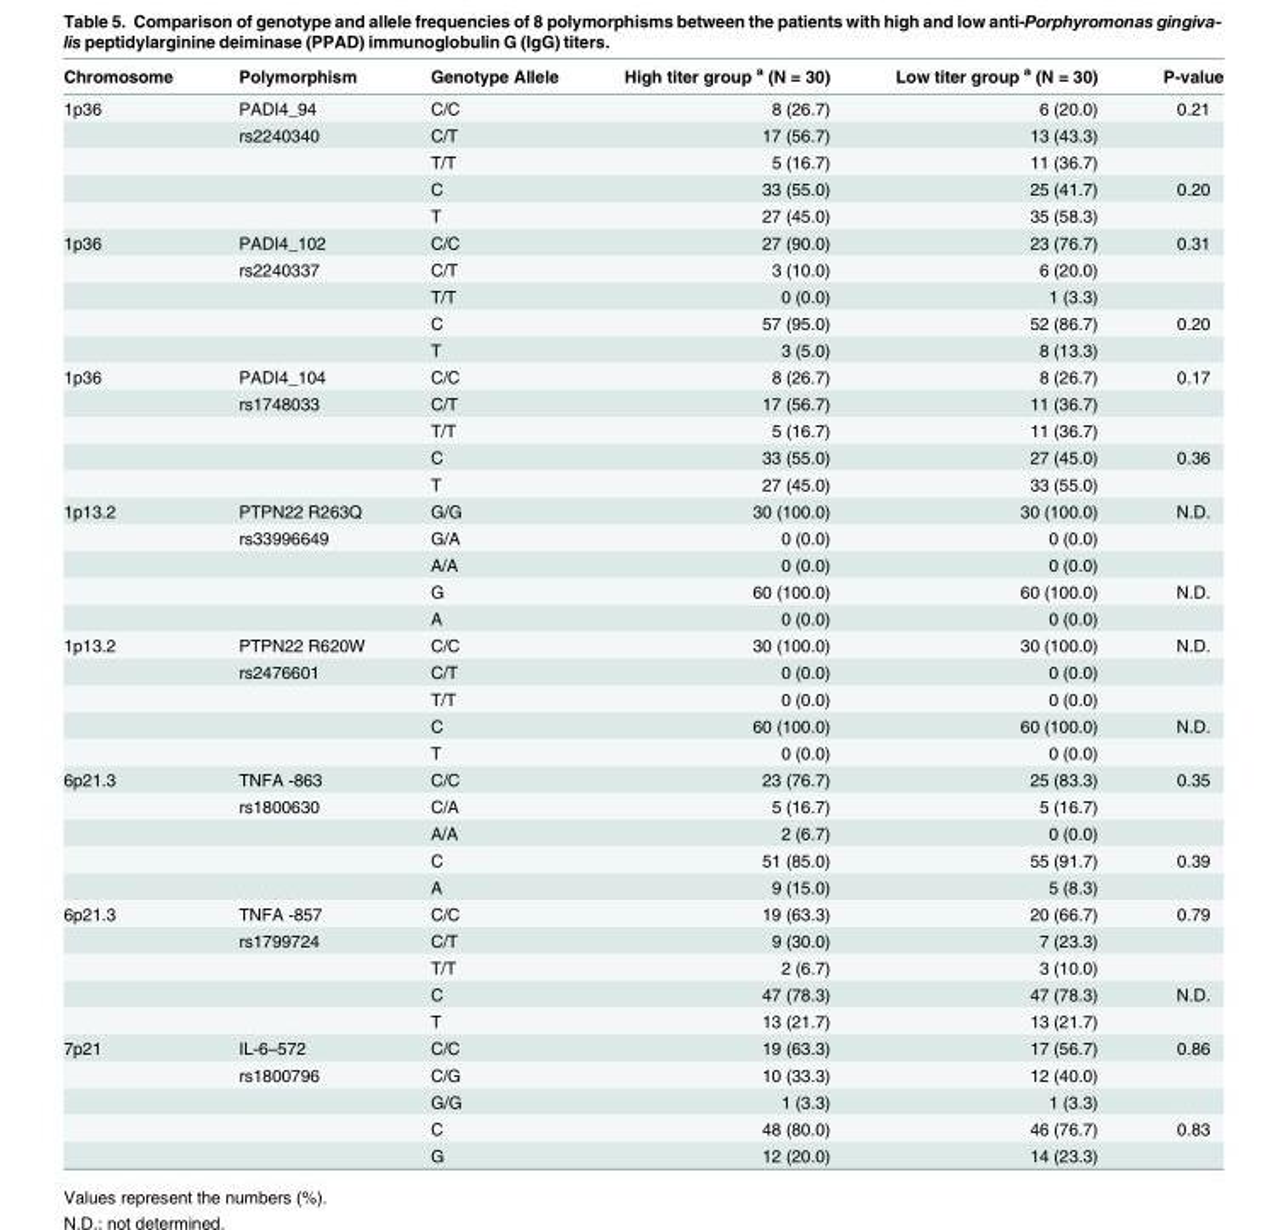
<table><thead><tr><td>Chromosome</td><td>Polymorphism</td><td>Genotype Allele</td><td>High titer group <sup>a</sup> (N = 30)</td><td>Low titer group <sup>a</sup> (N = 30)</td><td>P-value</td></tr></thead><tbody><tr><td rowspan="5">1p36</td><td>PADI4_94</td><td>C/C</td><td>8 (26.7)</td><td>6 (20.0)</td><td>0.21</td></tr><tr><td>rs2240340</td><td>C/T</td><td>17 (56.7)</td><td>13 (43.3)</td><td></td></tr><tr><td></td><td>T/T</td><td>5 (16.7)</td><td>11 (36.7)</td><td></td></tr><tr><td></td><td>C</td><td>33 (55.0)</td><td>25 (41.7)</td><td>0.20</td></tr><tr><td></td><td>T</td><td>27 (45.0)</td><td>35 (58.3)</td><td></td></tr><tr><td rowspan="5">1p36</td><td>PADI4_102</td><td>C/C</td><td>27 (90.0)</td><td>23 (76.7)</td><td>0.31</td></tr><tr><td>rs2240337</td><td>C/T</td><td>3 (10.0)</td><td>6 (20.0)</td><td></td></tr><tr><td></td><td>T/T</td><td>0 (0.0)</td><td>1 (3.3)</td><td></td></tr><tr><td></td><td>C</td><td>57 (95.0)</td><td>52 (86.7)</td><td>0.20</td></tr><tr><td></td><td>T</td><td>3 (5.0)</td><td>8 (13.3)</td><td></td></tr><tr><td rowspan="5">1p36</td><td>PADI4_104</td><td>C/C</td><td>8 (26.7)</td><td>8 (26.7)</td><td>0.17</td></tr><tr><td>rs1748033</td><td>C/T</td><td>17 (56.7)</td><td>11 (36.7)</td><td></td></tr><tr><td></td><td>T/T</td><td>5 (16.7)</td><td>11 (36.7)</td><td></td></tr><tr><td></td><td>C</td><td>33 (55.0)</td><td>27 (45.0)</td><td>0.36</td></tr><tr><td></td><td>T</td><td>27 (45.0)</td><td>33 (55.0)</td><td></td></tr><tr><td rowspan="5">1p13.2</td><td>PTPN22 R263Q</td><td>G/G</td><td>30 (100.0)</td><td>30 (100.0)</td><td>N.D.</td></tr><tr><td>rs33996649</td><td>G/A</td><td>0 (0.0)</td><td>0 (0.0)</td><td></td></tr><tr><td></td><td>A/A</td><td>0 (0.0)</td><td>0 (0.0)</td><td></td></tr><tr><td></td><td>G</td><td>60 (100.0)</td><td>60 (100.0)</td><td>N.D.</td></tr><tr><td></td><td>A</td><td>0 (0.0)</td><td>0 (0.0)</td><td></td></tr><tr><td rowspan="5">1p13.2</td><td>PTPN22 R620W</td><td>C/C</td><td>30 (100.0)</td><td>30 (100.0)</td><td>N.D.</td></tr><tr><td>rs2476601</td><td>C/T</td><td>0 (0.0)</td><td>0 (0.0)</td><td></td></tr><tr><td></td><td>T/T</td><td>0 (0.0)</td><td>0 (0.0)</td><td></td></tr><tr><td></td><td>C</td><td>60 (100.0)</td><td>60 (100.0)</td><td>N.D.</td></tr><tr><td></td><td>T</td><td>0 (0.0)</td><td>0 (0.0)</td><td></td></tr><tr><td rowspan="5">6p21.3</td><td>TNFA -863</td><td>C/C</td><td>23 (76.7)</td><td>25 (83.3)</td><td>0.35</td></tr><tr><td>rs1800630</td><td>C/A</td><td>5 (16.7)</td><td>5 (16.7)</td><td></td></tr><tr><td></td><td>A/A</td><td>2 (6.7)</td><td>0 (0.0)</td><td></td></tr><tr><td></td><td>C</td><td>51 (85.0)</td><td>55 (91.7)</td><td>0.39</td></tr><tr><td></td><td>A</td><td>9 (15.0)</td><td>5 (8.3)</td><td></td></tr><tr><td rowspan="5">6p21.3</td><td>TNFA -857</td><td>C/C</td><td>19 (63.3)</td><td>20 (66.7)</td><td>0.79</td></tr><tr><td>rs1799724</td><td>C/T</td><td>9 (30.0)</td><td>7 (23.3)</td><td></td></tr><tr><td></td><td>T/T</td><td>2 (6.7)</td><td>3 (10.0)</td><td></td></tr><tr><td></td><td>C</td><td>47 (78.3)</td><td>47 (78.3)</td><td>N.D.</td></tr><tr><td></td><td>T</td><td>13 (21.7)</td><td>13 (21.7)</td><td></td></tr><tr><td rowspan="5">7p21</td><td>IL-6–572</td><td>C/C</td><td>19 (63.3)</td><td>17 (56.7)</td><td>0.86</td></tr><tr><td>rs1800796</td><td>C/G</td><td>10 (33.3)</td><td>12 (40.0)</td><td></td></tr><tr><td></td><td>G/G</td><td>1 (3.3)</td><td>1 (3.3)</td><td></td></tr><tr><td></td><td>C</td><td>48 (80.0)</td><td>46 (76.7)</td><td>0.83</td></tr><tr><td></td><td>G</td><td>12 (20.0)</td><td>14 (23.3)</td><td></td></tr></tbody></table>